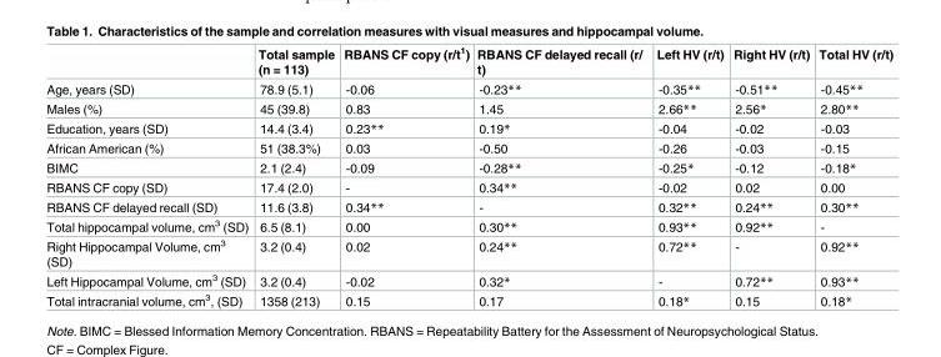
<table><thead><tr><td></td><td>Total sample (n = 113)</td><td>RBANS CF copy (r/t<sup>1</sup>)</td><td>RBANS CF delayed recall (r/ t)</td><td>Left HV (r/t)</td><td>Right HV (r/t)</td><td>Total HV (r/t)</td></tr></thead><tbody><tr><td>Age, years (SD)</td><td>78.9 (5.1)</td><td>-0.06</td><td>-0.23**</td><td>-0.35**</td><td>-0.51**</td><td>-0.45**</td></tr><tr><td>Males (%)</td><td>45 (39.8)</td><td>0.83</td><td>1.45</td><td>2.66**</td><td>2.56*</td><td>2.80**</td></tr><tr><td>Education, years (SD)</td><td>14.4 (3.4)</td><td>0.23**</td><td>0.19*</td><td>-0.04</td><td>-0.02</td><td>-0.03</td></tr><tr><td>African American (%)</td><td>51 (38.3%)</td><td>0.03</td><td>-0.50</td><td>-0.26</td><td>-0.03</td><td>-0.15</td></tr><tr><td>BIMC</td><td>2.1 (2.4)</td><td>-0.09</td><td>-0.28**</td><td>-0.25*</td><td>-0.12</td><td>-0.18*</td></tr><tr><td>RBANS CF copy (SD)</td><td>17.4 (2.0)</td><td>-</td><td>0.34**</td><td>-0.02</td><td>0.02</td><td>0.00</td></tr><tr><td>RBANS CF delayed recall (SD)</td><td>11.6 (3.8)</td><td>0.34**</td><td>-</td><td>0.32**</td><td>0.24**</td><td>0.30**</td></tr><tr><td>Total hippocampal volume, cm<sup>3</sup> (SD)</td><td>6.5 (8.1)</td><td>0.00</td><td>0.30**</td><td>0.93**</td><td>0.92**</td><td>-</td></tr><tr><td>Right Hippocampal Volume, cm<sup>3</sup> (SD)</td><td>3.2 (0.4)</td><td>0.02</td><td>0.24**</td><td>0.72**</td><td>-</td><td>0.92**</td></tr><tr><td>Left Hippocampal Volume, cm<sup>3</sup> (SD)</td><td>3.2 (0.4)</td><td>-0.02</td><td>0.32*</td><td>-</td><td>0.72**</td><td>0.93**</td></tr><tr><td>Total intracranial volume, cm<sup>3</sup>, (SD)</td><td>1358 (213)</td><td>0.15</td><td>0.17</td><td>0.18*</td><td>0.15</td><td>0.18*</td></tr></tbody></table>